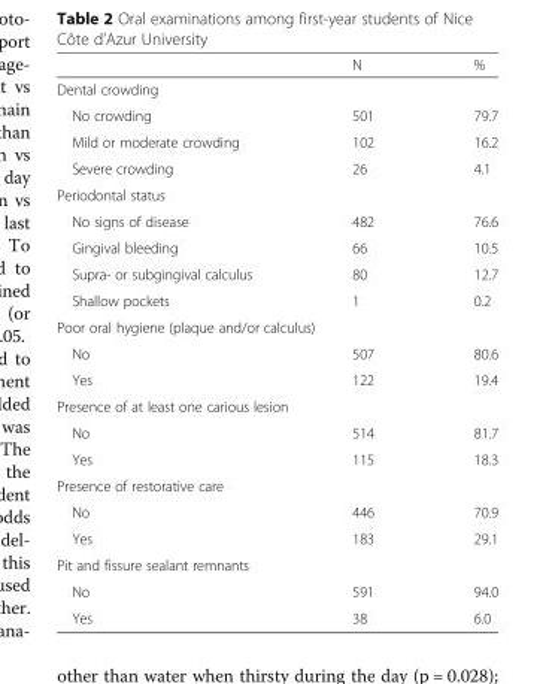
<table><thead><tr><td></td><td>N</td><td>%</td></tr></thead><tbody><tr><td colspan="3">Dental crowding</td></tr><tr><td>No crowding</td><td>501</td><td>79.7</td></tr><tr><td>Mild or moderate crowding</td><td>102</td><td>16.2</td></tr><tr><td>Severe crowding</td><td>26</td><td>4.1</td></tr><tr><td colspan="3">Periodontal status</td></tr><tr><td>No signs of disease</td><td>482</td><td>76.6</td></tr><tr><td>Gingival bleeding</td><td>66</td><td>10.5</td></tr><tr><td>Supra- or subgingival calculus</td><td>80</td><td>12.7</td></tr><tr><td>Shallow pockets</td><td>1</td><td>0.2</td></tr><tr><td colspan="3">Poor oral hygiene (plaque and/or calculus)</td></tr><tr><td>No</td><td>507</td><td>80.6</td></tr><tr><td>Yes</td><td>122</td><td>19.4</td></tr><tr><td colspan="3">Presence of at least one carious lesion</td></tr><tr><td>No</td><td>514</td><td>81.7</td></tr><tr><td>Yes</td><td>115</td><td>18.3</td></tr><tr><td colspan="3">Presence of restorative care</td></tr><tr><td>No</td><td>446</td><td>70.9</td></tr><tr><td>Yes</td><td>183</td><td>29.1</td></tr><tr><td colspan="3">Pit and fissure sealant remnants</td></tr><tr><td>No</td><td>591</td><td>94.0</td></tr><tr><td>Yes</td><td>38</td><td>6.0</td></tr></tbody></table>